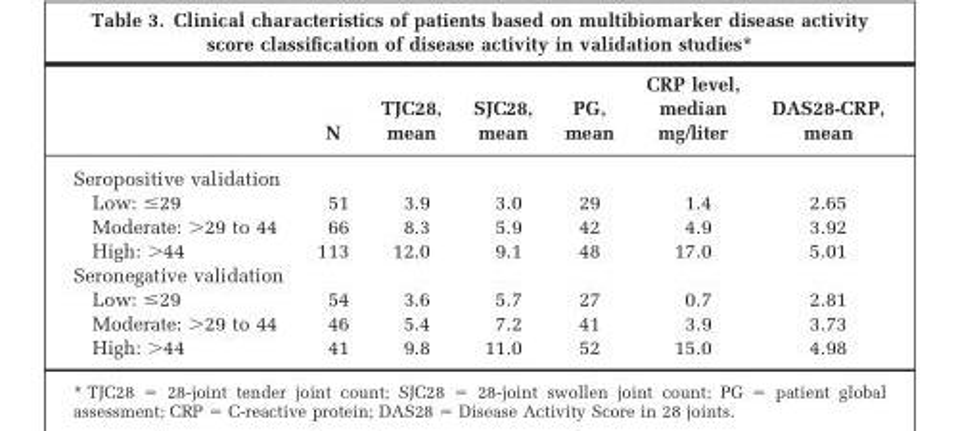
<table><thead><tr><td></td><td>N</td><td>TJC28, mean</td><td>SJC28, mean</td><td>PG, mean</td><td>CRP level, median mg/liter</td><td>DAS28-CRP, mean</td></tr></thead><tbody><tr><td colspan="7">Seropositive validation</td></tr><tr><td>Low: ≤29</td><td>51</td><td>3.9</td><td>3.0</td><td>29</td><td>1.4</td><td>2.65</td></tr><tr><td>Moderate: &gt;29 to 44</td><td>66</td><td>8.3</td><td>5.9</td><td>42</td><td>4.9</td><td>3.92</td></tr><tr><td>High: &gt;44</td><td>113</td><td>12.0</td><td>9.1</td><td>48</td><td>17.0</td><td>5.01</td></tr><tr><td colspan="7">Seronegative validation</td></tr><tr><td>Low: ≤29</td><td>54</td><td>3.6</td><td>5.7</td><td>27</td><td>0.7</td><td>2.81</td></tr><tr><td>Moderate: &gt;29 to 44</td><td>46</td><td>5.4</td><td>7.2</td><td>41</td><td>3.9</td><td>3.73</td></tr><tr><td>High: &gt;44</td><td>41</td><td>9.8</td><td>11.0</td><td>52</td><td>15.0</td><td>4.98</td></tr></tbody></table>